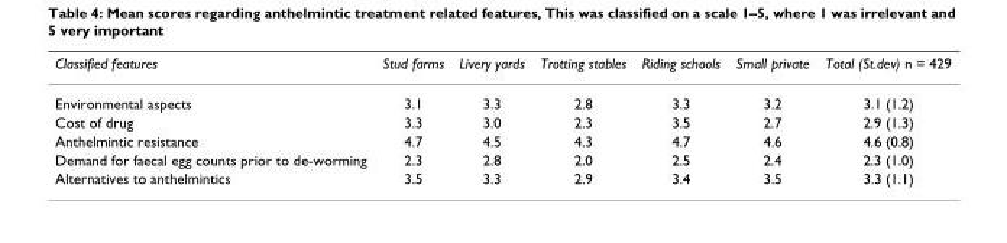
<table><thead><tr><td>Classified features</td><td>Stud farms</td><td>Livery yards</td><td>Trotting stables</td><td>Riding schools</td><td>Small private</td><td>Total (St.dev) n = 429</td></tr></thead><tbody><tr><td>Environmental aspects</td><td>3.1</td><td>3.3</td><td>2.8</td><td>3.3</td><td>3.2</td><td>3.1 (1.2)</td></tr><tr><td>Cost of drug</td><td>3.3</td><td>3.0</td><td>2.3</td><td>3.5</td><td>2.7</td><td>2.9 (1.3)</td></tr><tr><td>Anthelmintic resistance</td><td>4.7</td><td>4.5</td><td>4.3</td><td>4.7</td><td>4.6</td><td>4.6 (0.8)</td></tr><tr><td>Demand for faecal egg counts prior to de-worming</td><td>2.3</td><td>2.8</td><td>2.0</td><td>2.5</td><td>2.4</td><td>2.3 (1.0)</td></tr><tr><td>Alternatives to anthelmintics</td><td>3.5</td><td>3.3</td><td>2.9</td><td>3.4</td><td>3.5</td><td>3.3 (1.1)</td></tr></tbody></table>